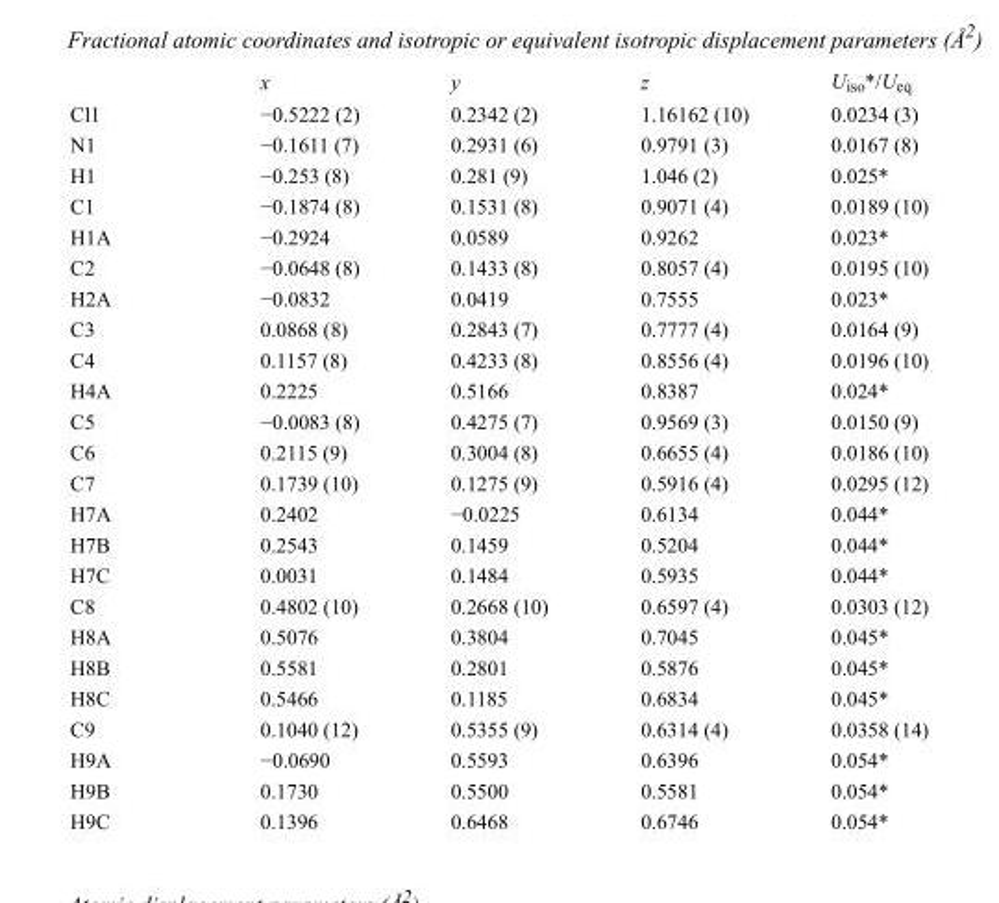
<table><thead><tr><td></td><td>x</td><td>y</td><td>z</td><td>U<sub>iso</sub>*/U<sub>eq</sub></td></tr></thead><tbody><tr><td>Cl1</td><td>−0.5222 (2)</td><td>0.2342 (2)</td><td>1.16162 (10)</td><td>0.0234 (3)</td></tr><tr><td>N1</td><td>−0.1611 (7)</td><td>0.2931 (6)</td><td>0.9791 (3)</td><td>0.0167 (8)</td></tr><tr><td>H1</td><td>−0.253 (8)</td><td>0.281 (9)</td><td>1.046 (2)</td><td>0.025*</td></tr><tr><td>C1</td><td>−0.1874 (8)</td><td>0.1531 (8)</td><td>0.9071 (4)</td><td>0.0189 (10)</td></tr><tr><td>H1A</td><td>−0.2924</td><td>0.0589</td><td>0.9262</td><td>0.023*</td></tr><tr><td>C2</td><td>−0.0648 (8)</td><td>0.1433 (8)</td><td>0.8057 (4)</td><td>0.0195 (10)</td></tr><tr><td>H2A</td><td>−0.0832</td><td>0.0419</td><td>0.7555</td><td>0.023*</td></tr><tr><td>C3</td><td>0.0868 (8)</td><td>0.2843 (7)</td><td>0.7777 (4)</td><td>0.0164 (9)</td></tr><tr><td>C4</td><td>0.1157 (8)</td><td>0.4233 (8)</td><td>0.8556 (4)</td><td>0.0196 (10)</td></tr><tr><td>H4A</td><td>0.2225</td><td>0.5166</td><td>0.8387</td><td>0.024*</td></tr><tr><td>C5</td><td>−0.0083 (8)</td><td>0.4275 (7)</td><td>0.9569 (3)</td><td>0.0150 (9)</td></tr><tr><td>C6</td><td>0.2115 (9)</td><td>0.3004 (8)</td><td>0.6655 (4)</td><td>0.0186 (10)</td></tr><tr><td>C7</td><td>0.1739 (10)</td><td>0.1275 (9)</td><td>0.5916 (4)</td><td>0.0295 (12)</td></tr><tr><td>H7A</td><td>0.2402</td><td>−0.0225</td><td>0.6134</td><td>0.044*</td></tr><tr><td>H7B</td><td>0.2543</td><td>0.1459</td><td>0.5204</td><td>0.044*</td></tr><tr><td>H7C</td><td>0.0031</td><td>0.1484</td><td>0.5935</td><td>0.044*</td></tr><tr><td>C8</td><td>0.4802 (10)</td><td>0.2668 (10)</td><td>0.6597 (4)</td><td>0.0303 (12)</td></tr><tr><td>H8A</td><td>0.5076</td><td>0.3804</td><td>0.7045</td><td>0.045*</td></tr><tr><td>H8B</td><td>0.5581</td><td>0.2801</td><td>0.5876</td><td>0.045*</td></tr><tr><td>H8C</td><td>0.5466</td><td>0.1185</td><td>0.6834</td><td>0.045*</td></tr><tr><td>C9</td><td>0.1040 (12)</td><td>0.5355 (9)</td><td>0.6314 (4)</td><td>0.0358 (14)</td></tr><tr><td>H9A</td><td>−0.0690</td><td>0.5593</td><td>0.6396</td><td>0.054*</td></tr><tr><td>H9B</td><td>0.1730</td><td>0.5500</td><td>0.5581</td><td>0.054*</td></tr><tr><td>H9C</td><td>0.1396</td><td>0.6468</td><td>0.6746</td><td>0.054*</td></tr></tbody></table>